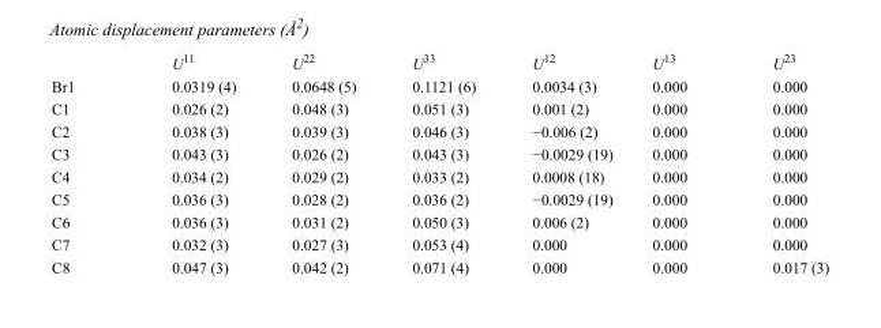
<table><thead><tr><td></td><td>U<sup>11</sup></td><td>U<sup>22</sup></td><td>U<sup>33</sup></td><td>U<sup>12</sup></td><td>U<sup>13</sup></td><td>U<sup>23</sup></td></tr></thead><tbody><tr><td>Br1</td><td>0.0319 (4)</td><td>0.0648 (5)</td><td>0.1121 (6)</td><td>0.0034 (3)</td><td>0.000</td><td>0.000</td></tr><tr><td>C1</td><td>0.026 (2)</td><td>0.048 (3)</td><td>0.051 (3)</td><td>0.001 (2)</td><td>0.000</td><td>0.000</td></tr><tr><td>C2</td><td>0.038 (3)</td><td>0.039 (3)</td><td>0.046 (3)</td><td>−0.006 (2)</td><td>0.000</td><td>0.000</td></tr><tr><td>C3</td><td>0.043 (3)</td><td>0.026 (2)</td><td>0.043 (3)</td><td>−0.0029 (19)</td><td>0.000</td><td>0.000</td></tr><tr><td>C4</td><td>0.034 (2)</td><td>0.029 (2)</td><td>0.033 (2)</td><td>0.0008 (18)</td><td>0.000</td><td>0.000</td></tr><tr><td>C5</td><td>0.036 (3)</td><td>0.028 (2)</td><td>0.036 (2)</td><td>−0.0029 (19)</td><td>0.000</td><td>0.000</td></tr><tr><td>C6</td><td>0.036 (3)</td><td>0.031 (2)</td><td>0.050 (3)</td><td>0.006 (2)</td><td>0.000</td><td>0.000</td></tr><tr><td>C7</td><td>0.032 (3)</td><td>0.027 (3)</td><td>0.053 (4)</td><td>0.000</td><td>0.000</td><td>0.000</td></tr><tr><td>C8</td><td>0.047 (3)</td><td>0.042 (2)</td><td>0.071 (4)</td><td>0.000</td><td>0.000</td><td>0.017 (3)</td></tr></tbody></table>